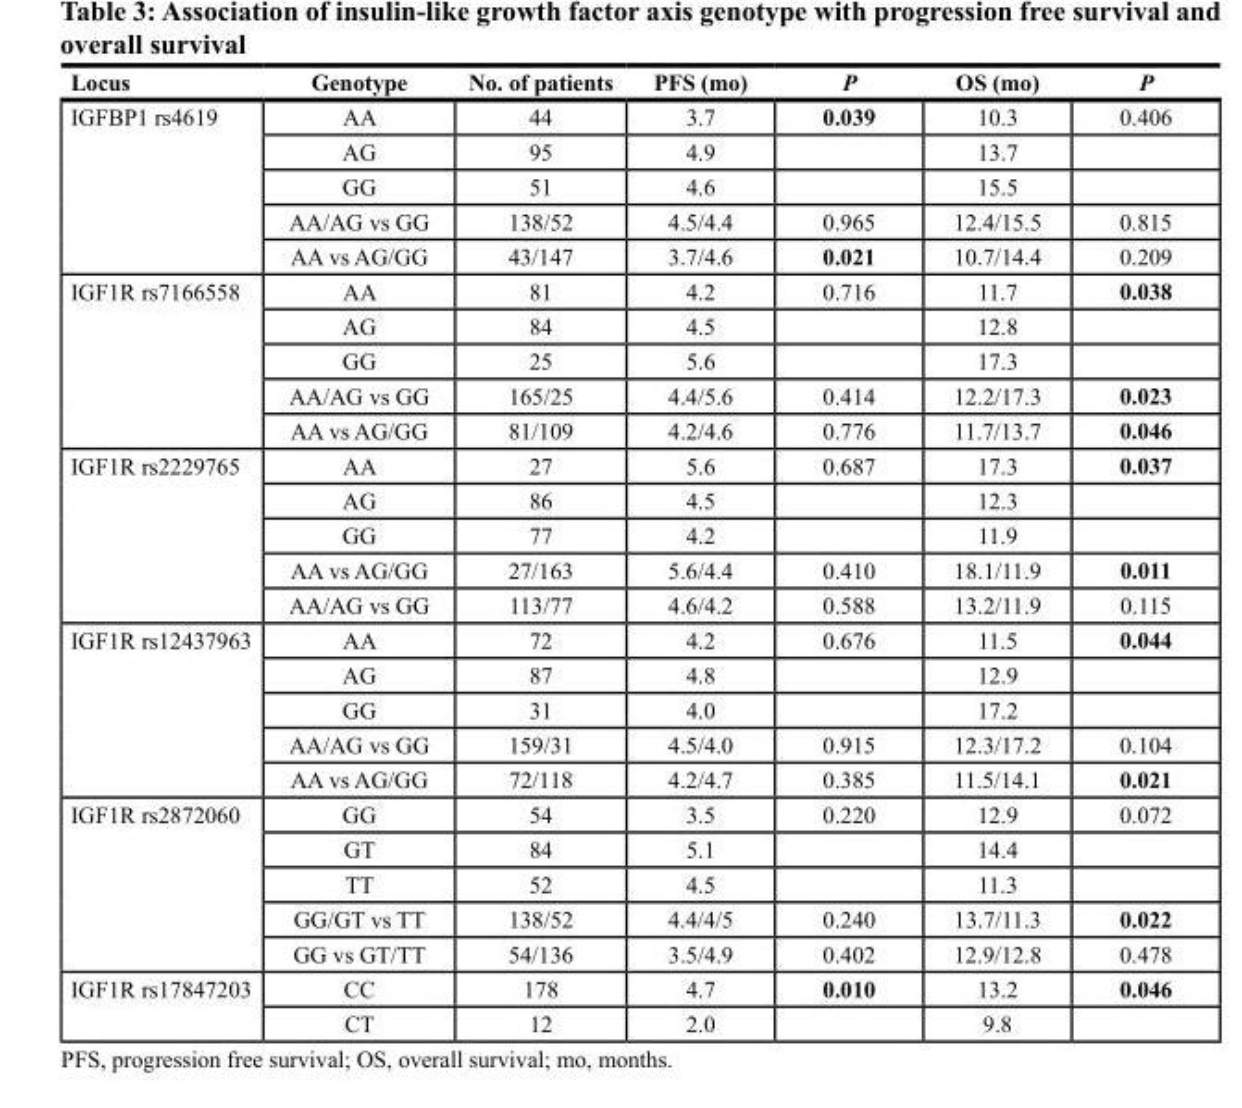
<table><thead><tr><td>Locus</td><td>Genotype</td><td>No. of patients</td><td>PFS (mo)</td><td>P</td><td>OS (mo)</td><td>P</td></tr></thead><tbody><tr><td rowspan="5">IGFBP1 rs4619</td><td>AA</td><td>44</td><td>3.7</td><td>0.039</td><td>10.3</td><td>0.406</td></tr><tr><td>AG</td><td>95</td><td>4.9</td><td></td><td>13.7</td><td></td></tr><tr><td>GG</td><td>51</td><td>4.6</td><td></td><td>15.5</td><td></td></tr><tr><td>AA/AG vs GG</td><td>138/52</td><td>4.5/4.4</td><td>0.965</td><td>12.4/15.5</td><td>0.815</td></tr><tr><td>AA vs AG/GG</td><td>43/147</td><td>3.7/4.6</td><td>0.021</td><td>10.7/14.4</td><td>0.209</td></tr><tr><td rowspan="5">IGF1R rs7166558</td><td>AA</td><td>81</td><td>4.2</td><td>0.716</td><td>11.7</td><td>0.038</td></tr><tr><td>AG</td><td>84</td><td>4.5</td><td></td><td>12.8</td><td></td></tr><tr><td>GG</td><td>25</td><td>5.6</td><td></td><td>17.3</td><td></td></tr><tr><td>AA/AG vs GG</td><td>165/25</td><td>4.4/5.6</td><td>0.414</td><td>12.2/17.3</td><td>0.023</td></tr><tr><td>AA vs AG/GG</td><td>81/109</td><td>4.2/4.6</td><td>0.776</td><td>11.7/13.7</td><td>0.046</td></tr><tr><td rowspan="5">IGF1R rs2229765</td><td>AA</td><td>27</td><td>5.6</td><td>0.687</td><td>17.3</td><td>0.037</td></tr><tr><td>AG</td><td>86</td><td>4.5</td><td></td><td>12.3</td><td></td></tr><tr><td>GG</td><td>77</td><td>4.2</td><td></td><td>11.9</td><td></td></tr><tr><td>AA vs AG/GG</td><td>27/163</td><td>5.6/4.4</td><td>0.410</td><td>18.1/11.9</td><td>0.011</td></tr><tr><td>AA/AG vs GG</td><td>113/77</td><td>4.6/4.2</td><td>0.588</td><td>13.2/11.9</td><td>0.115</td></tr><tr><td rowspan="5">IGF1R rs12437963</td><td>AA</td><td>72</td><td>4.2</td><td>0.676</td><td>11.5</td><td>0.044</td></tr><tr><td>AG</td><td>87</td><td>4.8</td><td></td><td>12.9</td><td></td></tr><tr><td>GG</td><td>31</td><td>4.0</td><td></td><td>17.2</td><td></td></tr><tr><td>AA/AG vs GG</td><td>159/31</td><td>4.5/4.0</td><td>0.915</td><td>12.3/17.2</td><td>0.104</td></tr><tr><td>AA vs AG/GG</td><td>72/118</td><td>4.2/4.7</td><td>0.385</td><td>11.5/14.1</td><td>0.021</td></tr><tr><td rowspan="5">IGF1R rs2872060</td><td>GG</td><td>54</td><td>3.5</td><td>0.220</td><td>12.9</td><td>0.072</td></tr><tr><td>GT</td><td>84</td><td>5.1</td><td></td><td>14.4</td><td></td></tr><tr><td>TT</td><td>52</td><td>4.5</td><td></td><td>11.3</td><td></td></tr><tr><td>GG/GT vs TT</td><td>138/52</td><td>4.4/4/5</td><td>0.240</td><td>13.7/11.3</td><td>0.022</td></tr><tr><td>GG vs GT/TT</td><td>54/136</td><td>3.5/4.9</td><td>0.402</td><td>12.9/12.8</td><td>0.478</td></tr><tr><td rowspan="2">IGF1R rs17847203</td><td>CC</td><td>178</td><td>4.7</td><td>0.010</td><td>13.2</td><td>0.046</td></tr><tr><td>CT</td><td>12</td><td>2.0</td><td></td><td>9.8</td><td></td></tr></tbody></table>